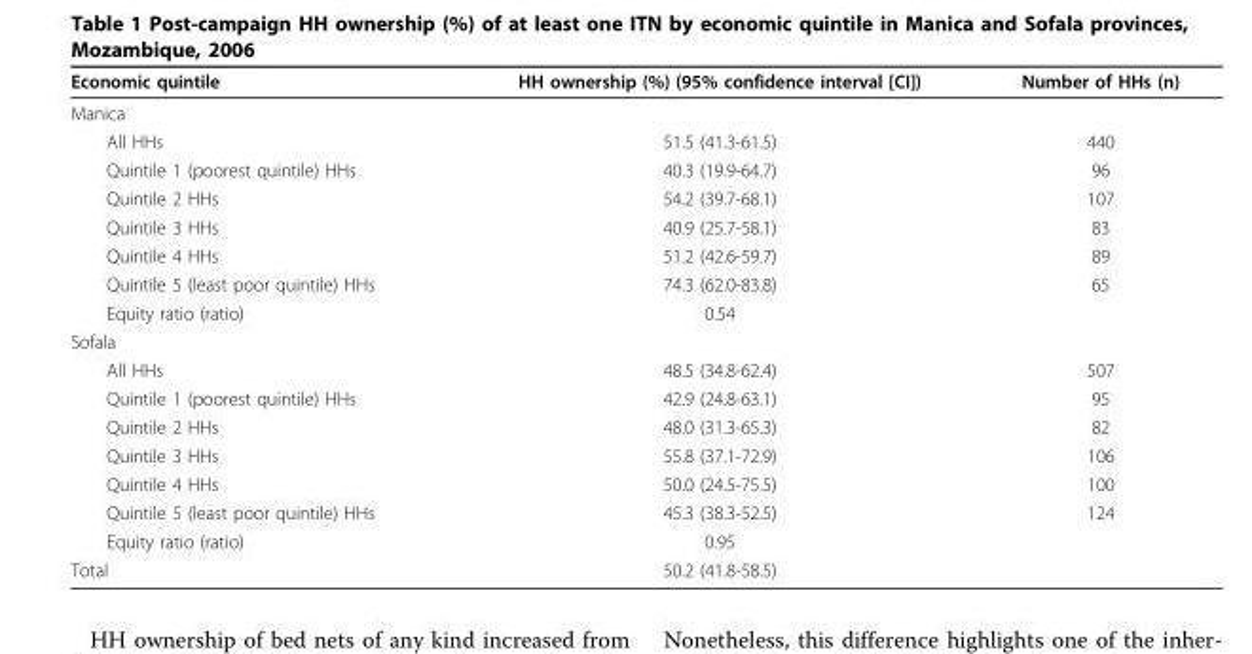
<table><thead><tr><td>Economic quintile</td><td>HH ownership (%) (95% confidence interval [CI])</td><td>Number of HHs (n)</td></tr></thead><tbody><tr><td colspan="3">Manica</td></tr><tr><td>All HHs</td><td>51.5 (41.3-61.5)</td><td>440</td></tr><tr><td>Quintile 1 (poorest quintile) HHs</td><td>40.3 (19.9-64.7)</td><td>96</td></tr><tr><td>Quintile 2 HHs</td><td>54.2 (39.7-68.1)</td><td>107</td></tr><tr><td>Quintile 3 HHs</td><td>40.9 (25.7-58.1)</td><td>83</td></tr><tr><td>Quintile 4 HHs</td><td>51.2 (42.6-59.7)</td><td>89</td></tr><tr><td>Quintile 5 (least poor quintile) HHs</td><td>74.3 (62.0-83.8)</td><td>65</td></tr><tr><td>Equity ratio (ratio)</td><td>0.54</td><td></td></tr><tr><td colspan="3">Sofala</td></tr><tr><td>All HHs</td><td>48.5 (34.8-62.4)</td><td>507</td></tr><tr><td>Quintile 1 (poorest quintile) HHs</td><td>42.9 (24.8-63.1)</td><td>95</td></tr><tr><td>Quintile 2 HHs</td><td>48.0 (31.3-65.3)</td><td>82</td></tr><tr><td>Quintile 3 HHs</td><td>55.8 (37.1-72.9)</td><td>106</td></tr><tr><td>Quintile 4 HHs</td><td>50.0 (24.5-75.5)</td><td>100</td></tr><tr><td>Quintile 5 (least poor quintile) HHs</td><td>45.3 (38.3-52.5)</td><td>124</td></tr><tr><td>Equity ratio (ratio)</td><td>0.95</td><td></td></tr><tr><td>Total</td><td>50.2 (41.8-58.5)</td><td></td></tr></tbody></table>